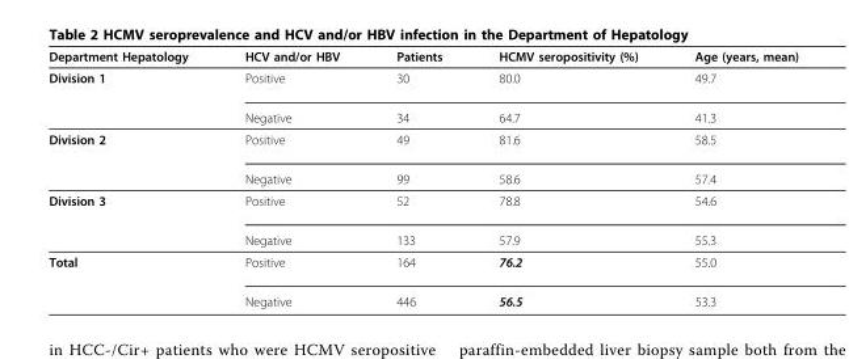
<table><thead><tr><td>Department Hepatology</td><td>HCV and/or HBV</td><td>Patients</td><td>HCMV seropositivity (%)</td><td>Age (years, mean)</td></tr></thead><tbody><tr><td rowspan="2">Division 1</td><td>Positive</td><td>30</td><td>80.0</td><td>49.7</td></tr><tr><td>Negative</td><td>34</td><td>64.7</td><td>41.3</td></tr><tr><td rowspan="2">Division 2</td><td>Positive</td><td>49</td><td>81.6</td><td>58.5</td></tr><tr><td>Negative</td><td>99</td><td>58.6</td><td>57.4</td></tr><tr><td rowspan="2">Division 3</td><td>Positive</td><td>52</td><td>78.8</td><td>54.6</td></tr><tr><td>Negative</td><td>133</td><td>57.9</td><td>55.3</td></tr><tr><td rowspan="2">Total</td><td>Positive</td><td>164</td><td>76.2</td><td>55.0</td></tr><tr><td>Negative</td><td>446</td><td>56.5</td><td>53.3</td></tr></tbody></table>